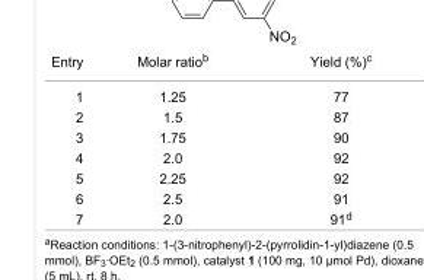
<table><tbody><tr><td>Entry</td><td>Molar ratiob</td><td>Yield (%)c</td></tr><tr><td>1</td><td>1.25</td><td>77</td></tr><tr><td>2</td><td>1.5</td><td>87</td></tr><tr><td>3</td><td>1.75</td><td>90</td></tr><tr><td>4</td><td>2.0</td><td>92</td></tr><tr><td>5</td><td>2.25</td><td>92</td></tr><tr><td>6</td><td>2.5</td><td>91</td></tr><tr><td>7</td><td>2.0</td><td>91<sup>d</sup></td></tr></tbody></table>